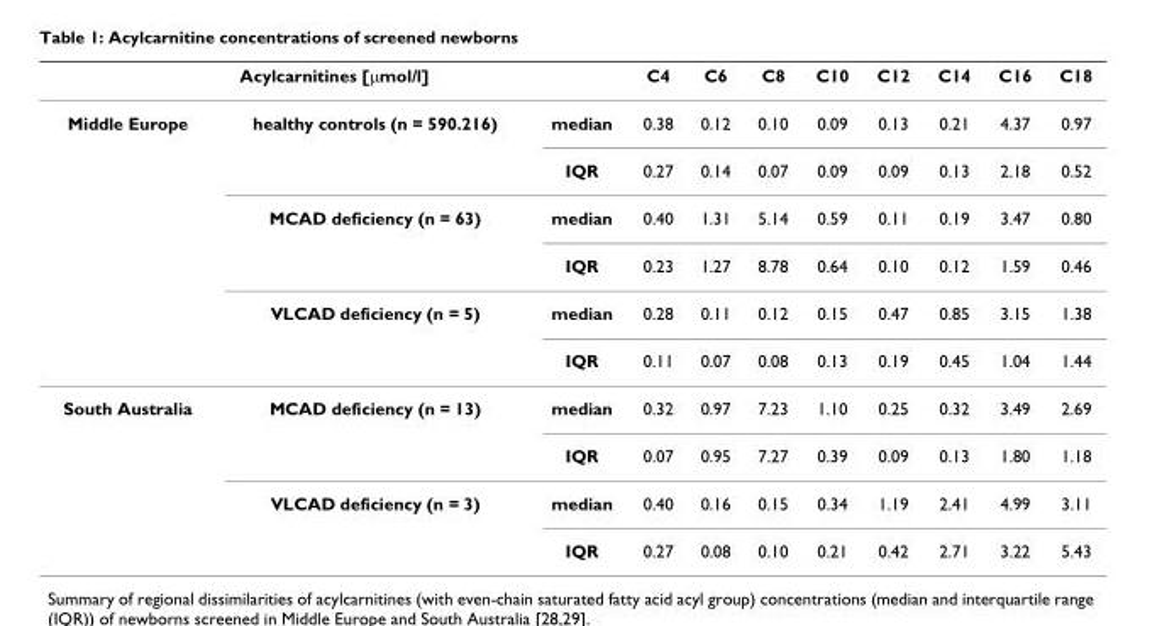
<table><thead><tr><td colspan="3">Acylcarnitines [μmol/l]</td><td rowspan="2">C4 0.38</td><td rowspan="2">C6 0.12</td><td rowspan="2">C8 0.10</td><td rowspan="2">C10 0.09</td><td rowspan="2">C12 0.13</td><td rowspan="2">C14 0.21</td><td rowspan="2">C16 4.37</td><td rowspan="2">C18 0.97</td></tr><tr><td>Middle Europe</td><td>healthy controls (n = 590.216)</td><td>median</td></tr></thead><tbody><tr><td></td><td></td><td>IQR</td><td>0.27</td><td>0.14</td><td>0.07</td><td>0.09</td><td>0.09</td><td>0.13</td><td>2.18</td><td>0.52</td></tr><tr><td></td><td>MCAD deficiency (n = 63)</td><td>median</td><td>0.40</td><td>1.31</td><td>5.14</td><td>0.59</td><td>0.11</td><td>0.19</td><td>3.47</td><td>0.80</td></tr><tr><td></td><td></td><td>IQR</td><td>0.23</td><td>1.27</td><td>8.78</td><td>0.64</td><td>0.10</td><td>0.12</td><td>1.59</td><td>0.46</td></tr><tr><td></td><td>VLCAD deficiency (n = 5)</td><td>median</td><td>0.28</td><td>0.11</td><td>0.12</td><td>0.15</td><td>0.47</td><td>0.85</td><td>3.15</td><td>1.38</td></tr><tr><td></td><td></td><td>IQR</td><td>0.11</td><td>0.07</td><td>0.08</td><td>0.13</td><td>0.19</td><td>0.45</td><td>1.04</td><td>1.44</td></tr><tr><td rowspan="4">South Australia</td><td>MCAD deficiency (n = 13)</td><td>median</td><td>0.32</td><td>0.97</td><td>7.23</td><td>1.10</td><td>0.25</td><td>0.32</td><td>3.49</td><td>2.69</td></tr><tr><td></td><td>IQR</td><td>0.07</td><td>0.95</td><td>7.27</td><td>0.39</td><td>0.09</td><td>0.13</td><td>1.80</td><td>1.18</td></tr><tr><td>VLCAD deficiency (n = 3)</td><td>median</td><td>0.40</td><td>0.16</td><td>0.15</td><td>0.34</td><td>1.19</td><td>2.41</td><td>4.99</td><td>3.11</td></tr><tr><td></td><td>IQR</td><td>0.27</td><td>0.08</td><td>0.10</td><td>0.21</td><td>0.42</td><td>2.71</td><td>3.22</td><td>5.43</td></tr></tbody></table>